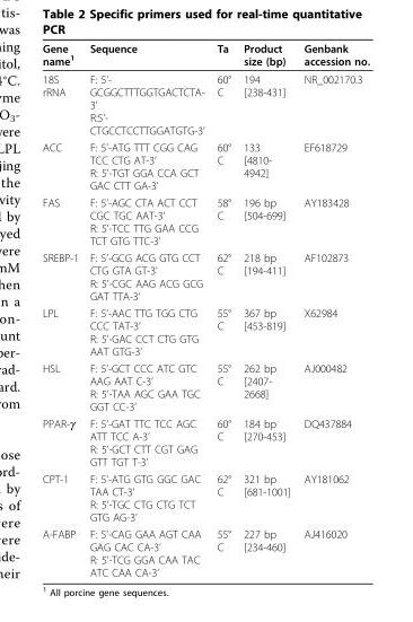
<table><thead><tr><td>Gene name<sup>1</sup></td><td>Sequence</td><td>Ta</td><td>Product size (bp)</td><td>Genbank accession no.</td></tr></thead><tbody><tr><td>18S rRNA</td><td>F: 5’- GCGGCTTTGGTGACTCTA- 3’ R:5’- CTGCCTCCTTGGATGTG-3’</td><td>60° C</td><td>194 [238-431]</td><td>NR_002170.3</td></tr><tr><td>ACC</td><td>F: 5’-ATG TTT CGG CAG TCC CTG AT-3’ R: 5’-TGT GGA CCA GCT GAC CTT GA-3’</td><td>60° C</td><td>133 [4810- 4942]</td><td>EF618729</td></tr><tr><td>FAS</td><td>F: 5’-AGC CTA ACT CCT CGC TGC AAT-3’ R: 5’-TCC TTG GAA CCG TCT GTG TTC-3’</td><td>58° C</td><td>196 bp [504-699]</td><td>AY183428</td></tr><tr><td>SREBP-1</td><td>F: 5’-GCG ACG GTG CCT CTG GTA GT-3’ R: 5’-CGC AAG ACG GCG GAT TTA-3’</td><td>62° C</td><td>218 bp [194-411]</td><td>AF102873</td></tr><tr><td>LPL</td><td>F: 5’-AAC TTG TGG CTG CCC TAT-3’ R: 5’-GAC CCT CTG GTG AAT GTG-3’</td><td>55° C</td><td>367 bp [453-819]</td><td>X62984</td></tr><tr><td>HSL</td><td>F: 5’-GCT CCC ATC GTC AAG AAT C-3’ R: 5’-TAA AGC GAA TGC GGT CC-3’</td><td>55° C</td><td>262 bp [2407- 2668]</td><td>AJ000482</td></tr><tr><td>PPAR-γ</td><td>F: 5’-GAT TTC TCC AGC ATT TCC A-3’ R: 5’-GCT CTT CGT GAG GTT TGT T-3’</td><td>60° C</td><td>184 bp [270-453]</td><td>DQ437884</td></tr><tr><td>CPT-1</td><td>F: 5’-ATG GTG GGC GAC TAA CT-3’ R: 5’-TGC CTG CTG TCT GTG AG-3’</td><td>62° C</td><td>321 bp [681-1001]</td><td>AY181062</td></tr><tr><td>A-FABP</td><td>F: 5’-CAG GAA AGT CAA GAG CAC CA-3’ R: 5’-TCG GGA CAA TAC ATC CAA CA-3’</td><td>55° C</td><td>227 bp [234-460]</td><td>AJ416020</td></tr></tbody></table>